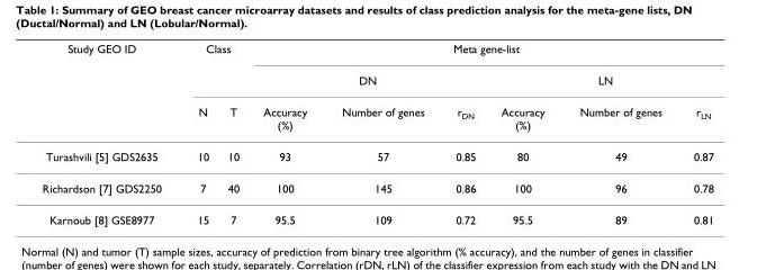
<table><thead><tr><td rowspan="3">Study GEO ID</td><td colspan="2">Class</td><td colspan="6">Meta gene-list</td></tr><tr><td rowspan="2">N</td><td rowspan="2">T</td><td colspan="3">DN</td><td colspan="3">LN</td></tr><tr><td>Accuracy (%)</td><td>Number of genes</td><td>r<sub>DN</sub></td><td>Accuracy (%)</td><td>Number of genes</td><td>r<sub>LN</sub></td></tr></thead><tbody><tr><td>Turashvili [5] GDS2635</td><td>10</td><td>10</td><td>93</td><td>57</td><td>0.85</td><td>80</td><td>49</td><td>0.87</td></tr><tr><td>Richardson [7] GDS2250</td><td>7</td><td>40</td><td>100</td><td>145</td><td>0.86</td><td>100</td><td>96</td><td>0.78</td></tr><tr><td>Karnoub [8] GSE8977</td><td>15</td><td>7</td><td>95.5</td><td>109</td><td>0.72</td><td>95.5</td><td>89</td><td>0.81</td></tr></tbody></table>